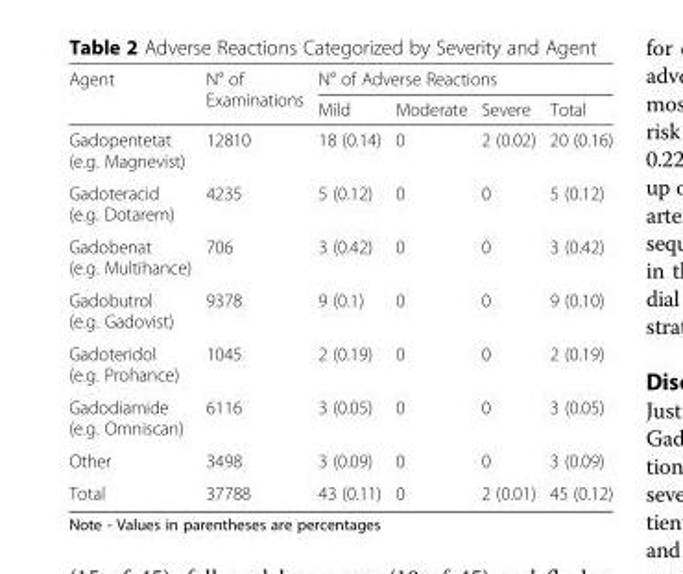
<table><thead><tr><td rowspan="2">Agent</td><td rowspan="2">N° of Examinations</td><td colspan="4">N° of Adverse Reactions</td></tr><tr><td>Mild</td><td>Moderate</td><td>Severe</td><td>Total</td></tr></thead><tbody><tr><td>Gadopentetat (e.g. Magnevist)</td><td>12810</td><td>18 (0.14)</td><td>0</td><td>2 (0.02)</td><td>20 (0.16)</td></tr><tr><td>Gadoteracid (e.g. Dotarem)</td><td>4235</td><td>5 (0.12)</td><td>0</td><td>0</td><td>5 (0.12)</td></tr><tr><td>Gadobenat (e.g. Multihance)</td><td>706</td><td>3 (0.42)</td><td>0</td><td>0</td><td>3 (0.42)</td></tr><tr><td>Gadobutrol (e.g. Gadovist)</td><td>9378</td><td>9 (0.1)</td><td>0</td><td>0</td><td>9 (0.10)</td></tr><tr><td>Gadoteridol (e.g. Prohance)</td><td>1045</td><td>2 (0.19)</td><td>0</td><td>0</td><td>2 (0.19)</td></tr><tr><td>Gadodiamide (e.g. Omniscan)</td><td>6116</td><td>3 (0.05)</td><td>0</td><td>0</td><td>3 (0.05)</td></tr><tr><td>Other</td><td>3498</td><td>3 (0.09)</td><td>0</td><td>0</td><td>3 (0.09)</td></tr><tr><td>Total</td><td>37788</td><td>43 (0.11)</td><td>0</td><td>2 (0.01)</td><td>45 (0.12)</td></tr></tbody></table>